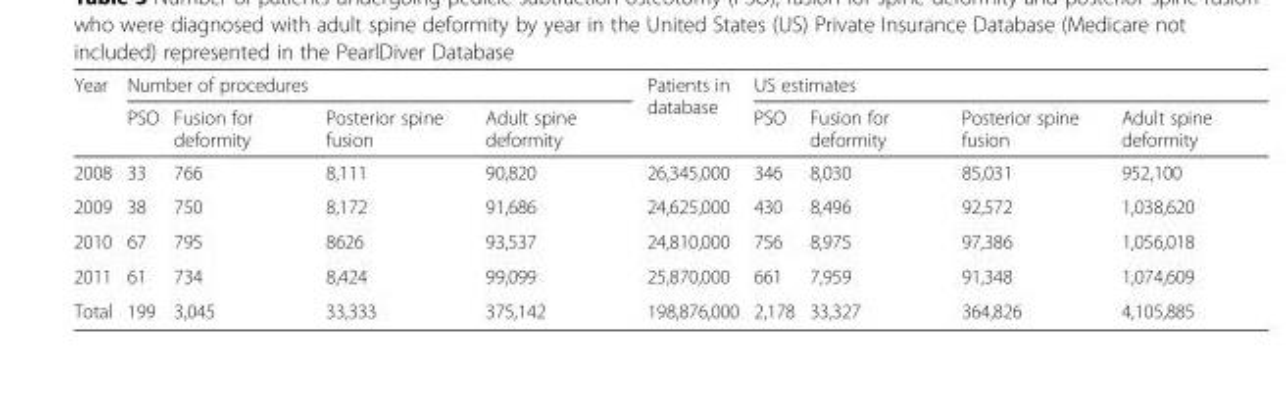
<table><thead><tr><td rowspan="2">Year</td><td colspan="4">Number of procedures</td><td rowspan="2">Patients in database</td><td colspan="4">US estimates</td></tr><tr><td>PSO</td><td>Fusion for deformity</td><td>Posterior spine fusion</td><td>Adult spine deformity</td><td>PSO</td><td>Fusion for deformity</td><td>Posterior spine fusion</td><td>Adult spine deformity</td></tr></thead><tbody><tr><td>2008</td><td>33</td><td>766</td><td>8,111</td><td>90,820</td><td>26,345,000</td><td>346</td><td>8,030</td><td>85,031</td><td>952,100</td></tr><tr><td>2009</td><td>38</td><td>750</td><td>8,172</td><td>91,686</td><td>24,625,000</td><td>430</td><td>8,496</td><td>92,572</td><td>1,038,620</td></tr><tr><td>2010</td><td>67</td><td>795</td><td>8626</td><td>93,537</td><td>24,810,000</td><td>756</td><td>8,975</td><td>97,386</td><td>1,056,018</td></tr><tr><td>2011</td><td>61</td><td>734</td><td>8,424</td><td>99,099</td><td>25,870,000</td><td>661</td><td>7,959</td><td>91,348</td><td>1,074,609</td></tr><tr><td>Total</td><td>199</td><td>3,045</td><td>33,333</td><td>375,142</td><td>198,876,000</td><td>2,178</td><td>33,327</td><td>364,826</td><td>4,105,885</td></tr></tbody></table>